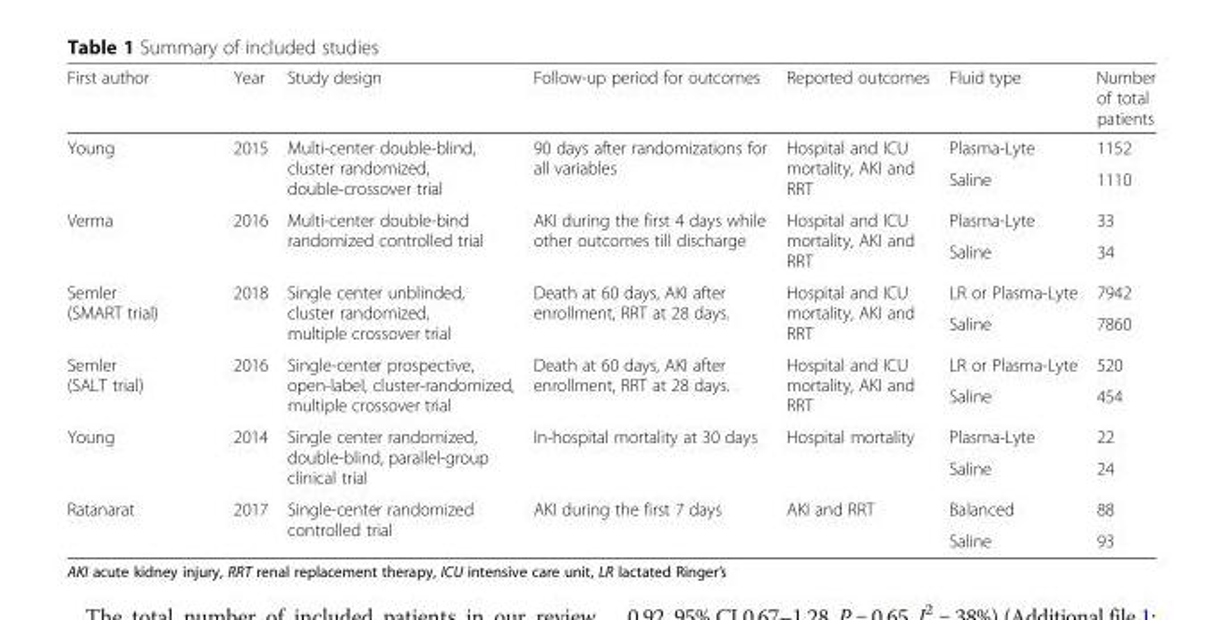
<table><thead><tr><td>First author</td><td>Year</td><td>Study design</td><td>Follow-up period for outcomes</td><td>Reported outcomes</td><td>Fluid type</td><td>Number of total patients</td></tr></thead><tbody><tr><td rowspan="2">Young</td><td rowspan="2">2015</td><td rowspan="2">Multi-center double-blind, cluster randomized, double-crossover trial</td><td rowspan="2">90 days after randomizations for all variables</td><td rowspan="2">Hospital and ICU mortality, AKI and RRT</td><td>Plasma-Lyte</td><td>1152</td></tr><tr><td>Saline</td><td>1110</td></tr><tr><td rowspan="2">Verma</td><td rowspan="2">2016</td><td rowspan="2">Multi-center double-bind randomized controlled trial</td><td rowspan="2">AKI during the first 4 days while other outcomes till discharge</td><td rowspan="2">Hospital and ICU mortality, AKI and RRT</td><td>Plasma-Lyte</td><td>33</td></tr><tr><td>Saline</td><td>34</td></tr><tr><td rowspan="2">Semler (SMART trial)</td><td rowspan="2">2018</td><td rowspan="2">Single center unblinded, cluster randomized, multiple crossover trial</td><td rowspan="2">Death at 60 days, AKI after enrollment, RRT at 28 days.</td><td rowspan="2">Hospital and ICU mortality, AKI and RRT</td><td>LR or Plasma-Lyte</td><td>7942</td></tr><tr><td>Saline</td><td>7860</td></tr><tr><td rowspan="2">Semler (SALT trial)</td><td rowspan="2">2016</td><td rowspan="2">Single-center prospective, open-label, cluster-randomized, multiple crossover trial</td><td rowspan="2">Death at 60 days, AKI after enrollment, RRT at 28 days.</td><td rowspan="2">Hospital and ICU mortality, AKI and RRT</td><td>LR or Plasma-Lyte</td><td>520</td></tr><tr><td>Saline</td><td>454</td></tr><tr><td rowspan="2">Young</td><td rowspan="2">2014</td><td rowspan="2">Single center randomized, double-blind, parallel-group clinical trial</td><td rowspan="2">In-hospital mortality at 30 days</td><td rowspan="2">Hospital mortality</td><td>Plasma-Lyte</td><td>22</td></tr><tr><td>Saline</td><td>24</td></tr><tr><td rowspan="2">Ratanarat</td><td rowspan="2">2017</td><td rowspan="2">Single-center randomized controlled trial</td><td rowspan="2">AKI during the first 7 days</td><td rowspan="2">AKI and RRT</td><td>Balanced</td><td>88</td></tr><tr><td>Saline</td><td>93</td></tr></tbody></table>